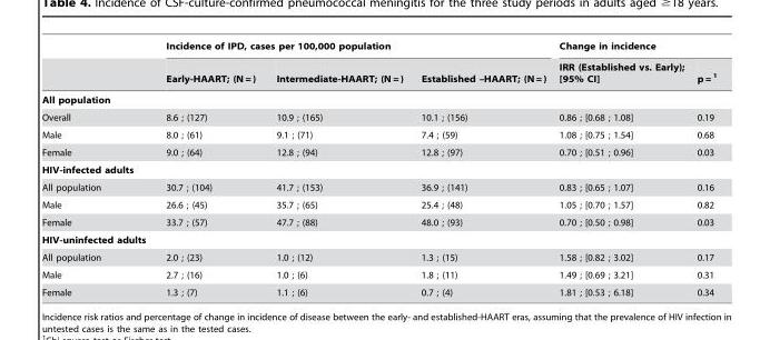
<table><thead><tr><td rowspan="2"></td><td colspan="3">Incidence of IPD, cases per 100,000 population</td><td colspan="2">Change in incidence</td></tr><tr><td>Early-HAART; (N = )</td><td>Intermediate-HAART; (N = )</td><td>Established –HAART; (N = )</td><td>IRR (Established vs. Early); [95% CI]</td><td>p = 1</td></tr></thead><tbody><tr><td colspan="6">All population</td></tr><tr><td>Overall</td><td>8.6 ; (127)</td><td>10.9 ; (165)</td><td>10.1 ; (156)</td><td>0.86 ; [0.68 ; 1.08]</td><td>0.19</td></tr><tr><td>Male</td><td>8.0 ; (61)</td><td>9.1 ; (71)</td><td>7.4 ; (59)</td><td>1.08 ; [0.75 ; 1.54]</td><td>0.68</td></tr><tr><td>Female</td><td>9.0 ; (64)</td><td>12.8 ; (94)</td><td>12.8 ; (97)</td><td>0.70 ; [0.51 ; 0.96]</td><td>0.03</td></tr><tr><td colspan="6">HIV-infected adults</td></tr><tr><td>All population</td><td>30.7 ; (104)</td><td>41.7 ; (153)</td><td>36.9 ; (141)</td><td>0.83 ; [0.65 ; 1.07]</td><td>0.16</td></tr><tr><td>Male</td><td>26.6 ; (45)</td><td>35.7 ; (65)</td><td>25.4 ; (48)</td><td>1.05 ; [0.70 ; 1.57]</td><td>0.82</td></tr><tr><td>Female</td><td>33.7 ; (57)</td><td>47.7 ; (88)</td><td>48.0 ; (93)</td><td>0.70 ; [0.50 ; 0.98]</td><td>0.03</td></tr><tr><td colspan="6">HIV-uninfected adults</td></tr><tr><td>All population</td><td>2.0 ; (23)</td><td>1.0 ; (12)</td><td>1.3 ; (15)</td><td>1.58 ; [0.82 ; 3.02]</td><td>0.17</td></tr><tr><td>Male</td><td>2.7 ; (16)</td><td>1.0 ; (6)</td><td>1.8 ; (11)</td><td>1.49 ; [0.69 ; 3.21]</td><td>0.31</td></tr><tr><td>Female</td><td>1.3 ; (7)</td><td>1.1 ; (6)</td><td>0.7 ; (4)</td><td>1.81 ; [0.53 ; 6.18]</td><td>0.34</td></tr></tbody></table>